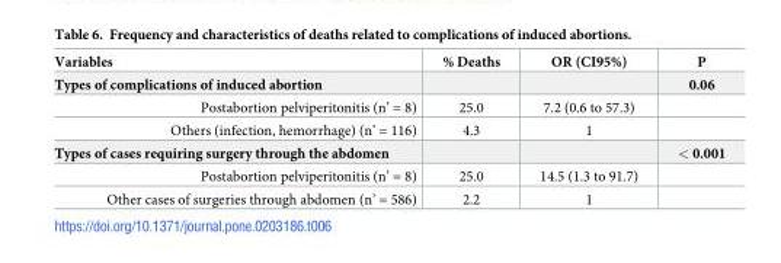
<table><thead><tr><td>Variables</td><td>% Deaths</td><td>OR (CI95%)</td><td>P</td></tr></thead><tbody><tr><td>Types of complications of induced abortion</td><td></td><td></td><td>0.06</td></tr><tr><td>Postabortion pelviperitonitis (n’ = 8)</td><td>25.0</td><td>7.2 (0.6 to 57.3)</td><td></td></tr><tr><td>Others (infection, hemorrhage) (n’ = 116)</td><td>4.3</td><td>1</td><td></td></tr><tr><td>Types of cases requiring surgery through the abdomen</td><td></td><td></td><td>&lt; 0.001</td></tr><tr><td>Postabortion pelviperitonitis (n’ = 8)</td><td>25.0</td><td>14.5 (1.3 to 91.7)</td><td></td></tr><tr><td>Other cases of surgeries through abdomen (n’ = 586)</td><td>2.2</td><td>1</td><td></td></tr></tbody></table>